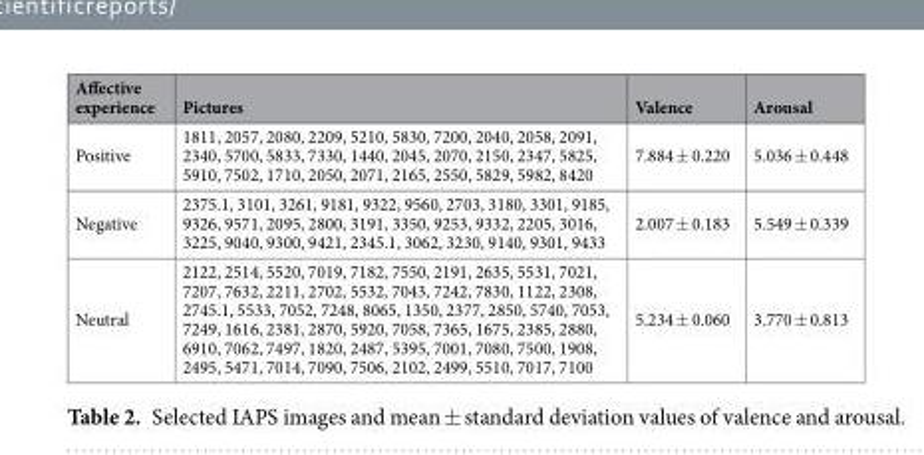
<table><thead><tr><td>Affective experience</td><td>Pictures</td><td>Valence</td><td>Arousal</td></tr></thead><tbody><tr><td>Positive</td><td>1811, 2057, 2080, 2209, 5210, 5830, 7200, 2040, 2058, 2091, 2340, 5700, 5833, 7330, 1440, 2045, 2070, 2150, 2347, 5825, 5910, 7502, 1710, 2050, 2071, 2165, 2550, 5829, 5982, 8420</td><td>7.884 ± 0.220</td><td>5.036 ± 0.448</td></tr><tr><td>Negative</td><td>2375.1, 3101, 3261, 9181, 9322, 9560, 2703, 3180, 3301, 9185, 9326, 9571, 2095, 2800, 3191, 3350, 9253, 9332, 2205, 3016, 3225, 9040, 9300, 9421, 2345.1, 3062, 3230, 9140, 9301, 9433</td><td>2.007 ± 0.183</td><td>5.549 ± 0.339</td></tr><tr><td>Neutral</td><td>2122, 2514, 5520, 7019, 7182, 7550, 2191, 2635, 5531, 7021, 7207, 7632, 2211, 2702, 5532, 7043, 7242, 7830, 1122, 2308, 2745.1, 5533, 7052, 7248, 8065, 1350, 2377, 2850, 5740, 7053, 7249, 1616, 2381, 2870, 5920, 7058, 7365, 1675, 2385, 2880, 6910, 7062, 7497, 1820, 2487, 5395, 7001, 7080, 7500, 1908, 2495, 5471, 7014, 7090, 7506, 2102, 2499, 5510, 7017, 7100</td><td>5.234 ± 0.060</td><td>3.770 ± 0.813</td></tr></tbody></table>